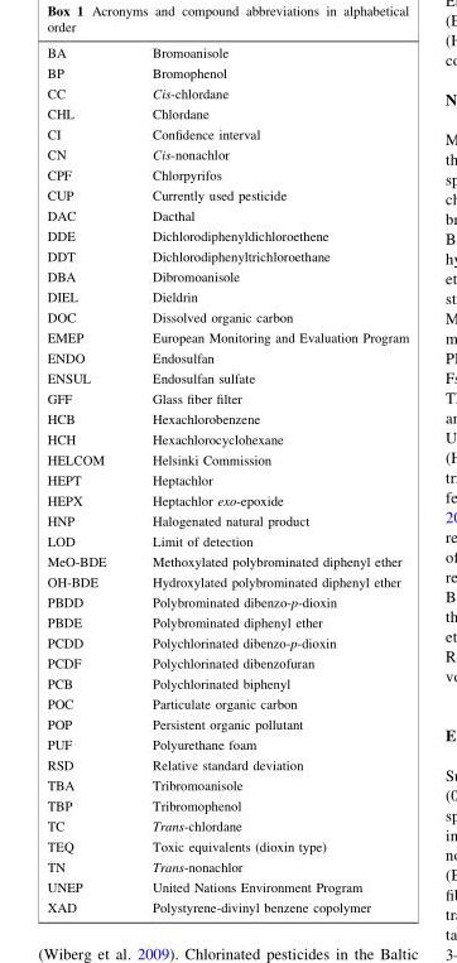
<table><tbody><tr><td>BA</td><td>Bromoanisole</td></tr><tr><td>BP</td><td>Bromophenol</td></tr><tr><td>CC</td><td>Cis-chlordane</td></tr><tr><td>CHL</td><td>Chlordane</td></tr><tr><td>CI</td><td>Confidence interval</td></tr><tr><td>CN</td><td>Cis-nonachlor</td></tr><tr><td>CPF</td><td>Chlorpyrifos</td></tr><tr><td>CUP</td><td>Currently used pesticide</td></tr><tr><td>DAC</td><td>Dacthal</td></tr><tr><td>DDE</td><td>Dichlorodiphenyldichloroethene</td></tr><tr><td>DDT</td><td>Dichlorodiphenyltrichloroethane</td></tr><tr><td>DBA</td><td>Dibromoanisole</td></tr><tr><td>DIEL</td><td>Dieldrin</td></tr><tr><td>DOC</td><td>Dissolved organic carbon</td></tr><tr><td>EMEP</td><td>European Monitoring and Evaluation Program</td></tr><tr><td>ENDO</td><td>Endosulfan</td></tr><tr><td>ENSUL</td><td>Endosulfan sulfate</td></tr><tr><td>GFF</td><td>Glass fiber filter</td></tr><tr><td>HCB</td><td>Hexachlorobenzene</td></tr><tr><td>HCH</td><td>Hexachlorocyclohexane</td></tr><tr><td>HELCOM</td><td>Helsinki Commission</td></tr><tr><td>HEPT</td><td>Heptachlor</td></tr><tr><td>HEPX</td><td>Heptachlor exo-epoxide</td></tr><tr><td>HNP</td><td>Halogenated natural product</td></tr><tr><td>LOD</td><td>Limit of detection</td></tr><tr><td>MeO-BDE</td><td>Methoxylated polybrominated diphenyl ether</td></tr><tr><td>OH-BDE</td><td>Hydroxylated polybrominated diphenyl ether</td></tr><tr><td>PBDD</td><td>Polybrominated dibenzo-p-dioxin</td></tr><tr><td>PBDE</td><td>Polybrominated diphenyl ether</td></tr><tr><td>PCDD</td><td>Polychlorinated dibenzo-p-dioxin</td></tr><tr><td>PCDF</td><td>Polychlorinated dibenzofuran</td></tr><tr><td>PCB</td><td>Polychlorinated biphenyl</td></tr><tr><td>POC</td><td>Particulate organic carbon</td></tr><tr><td>POP</td><td>Persistent organic pollutant</td></tr><tr><td>PUF</td><td>Polyurethane foam</td></tr><tr><td>RSD</td><td>Relative standard deviation</td></tr><tr><td>TBA</td><td>Tribromoanisole</td></tr><tr><td>TBP</td><td>Tribromophenol</td></tr><tr><td>TC</td><td>Trans-chlordane</td></tr><tr><td>TEQ</td><td>Toxic equivalents (dioxin type)</td></tr><tr><td>TN</td><td>Trans-nonachlor</td></tr><tr><td>UNEP</td><td>United Nations Environment Program</td></tr><tr><td>XAD</td><td>Polystyrene-divinyl benzene copolymer</td></tr></tbody></table>